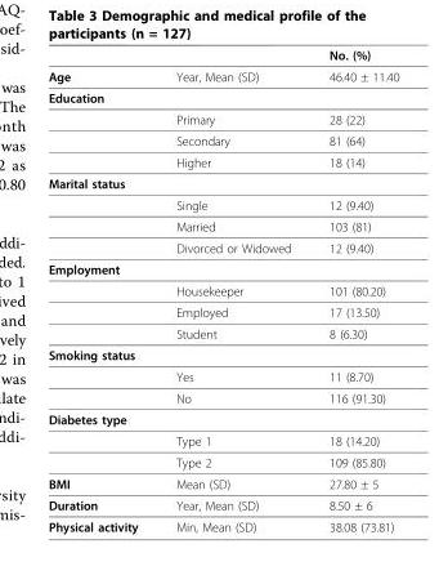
<table><thead><tr><td></td><td></td><td>No. (%)</td></tr></thead><tbody><tr><td>Age</td><td>Year, Mean (SD)</td><td>46.40 ± 11.40</td></tr><tr><td colspan="3">Education</td></tr><tr><td></td><td>Primary</td><td>28 (22)</td></tr><tr><td></td><td>Secondary</td><td>81 (64)</td></tr><tr><td></td><td>Higher</td><td>18 (14)</td></tr><tr><td colspan="3">Marital status</td></tr><tr><td></td><td>Single</td><td>12 (9.40)</td></tr><tr><td></td><td>Married</td><td>103 (81)</td></tr><tr><td></td><td>Divorced or Widowed</td><td>12 (9.40)</td></tr><tr><td colspan="3">Employment</td></tr><tr><td></td><td>Housekeeper</td><td>101 (80.20)</td></tr><tr><td></td><td>Employed</td><td>17 (13.50)</td></tr><tr><td></td><td>Student</td><td>8 (6.30)</td></tr><tr><td colspan="3">Smoking status</td></tr><tr><td></td><td>Yes</td><td>11 (8.70)</td></tr><tr><td></td><td>No</td><td>116 (91.30)</td></tr><tr><td colspan="3">Diabetes type</td></tr><tr><td></td><td>Type 1</td><td>18 (14.20)</td></tr><tr><td></td><td>Type 2</td><td>109 (85.80)</td></tr><tr><td>BMI</td><td>Mean (SD)</td><td>27.80 ± 5</td></tr><tr><td>Duration</td><td>Year, Mean (SD)</td><td>8.50 ± 6</td></tr><tr><td>Physical activity</td><td>Min, Mean (SD)</td><td>38.08 (73.81)</td></tr></tbody></table>